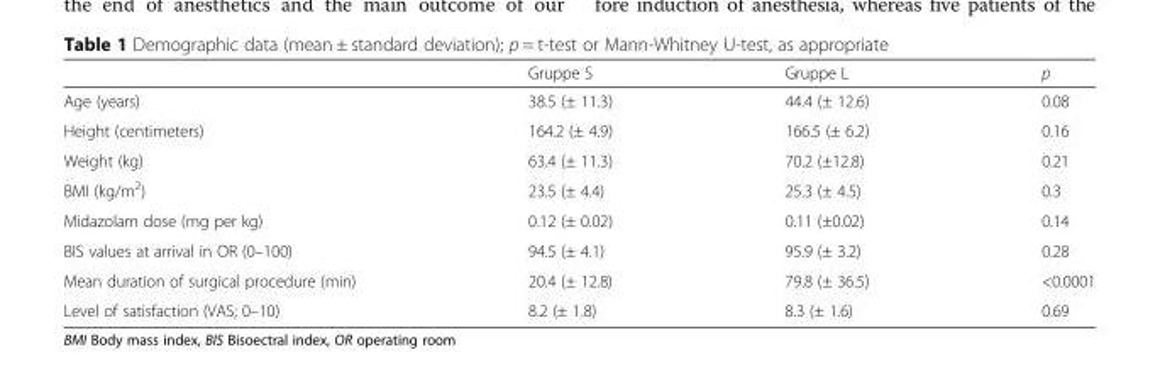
<table><thead><tr><td></td><td>Gruppe S</td><td>Gruppe L</td><td>p</td></tr></thead><tbody><tr><td>Age (years)</td><td>38.5 (± 11.3)</td><td>44.4 (± 12.6)</td><td>0.08</td></tr><tr><td>Height (centimeters)</td><td>164.2 (± 4.9)</td><td>166.5 (± 6.2)</td><td>0.16</td></tr><tr><td>Weight (kg)</td><td>63.4 (± 11.3)</td><td>70.2 (±12.8)</td><td>0.21</td></tr><tr><td>BMI (kg/m<sup>2</sup>)</td><td>23.5 (± 4.4)</td><td>25.3 (± 4.5)</td><td>0.3</td></tr><tr><td>Midazolam dose (mg per kg)</td><td>0.12 (± 0.02)</td><td>0.11 (±0.02)</td><td>0.14</td></tr><tr><td>BIS values at arrival in OR (0–100)</td><td>94.5 (± 4.1)</td><td>95.9 (± 3.2)</td><td>0.28</td></tr><tr><td>Mean duration of surgical procedure (min)</td><td>20.4 (± 12.8)</td><td>79.8 (± 36.5)</td><td>&lt;0.0001</td></tr><tr><td>Level of satisfaction (VAS; 0–10)</td><td>8.2 (± 1.8)</td><td>8.3 (± 1.6)</td><td>0.69</td></tr></tbody></table>